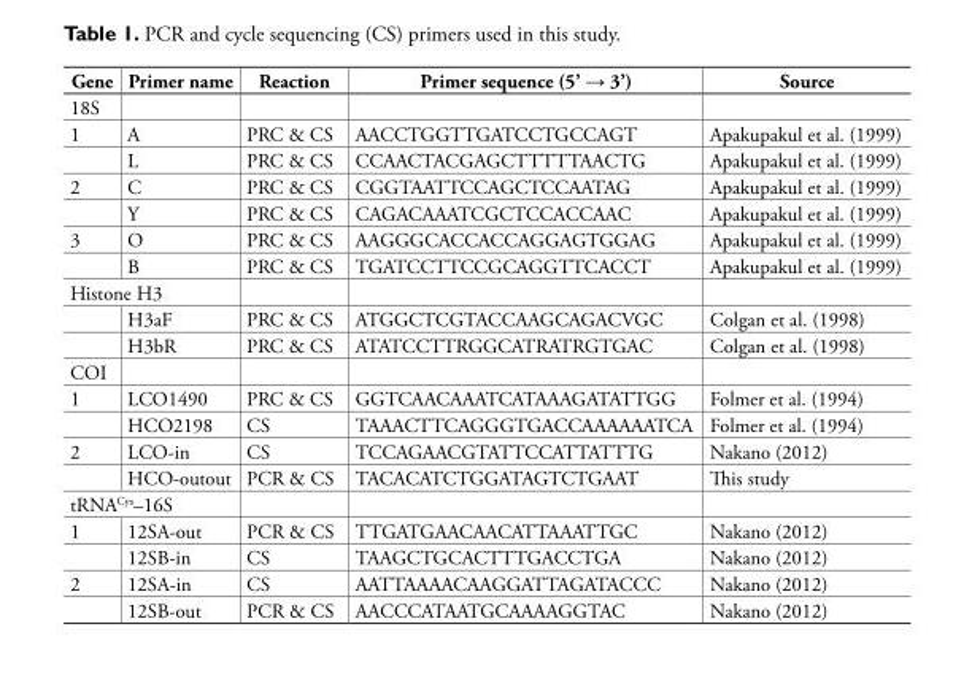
<table><thead><tr><td>Gene</td><td>Primer name</td><td>Reaction</td><td>Primer sequence (5’ → 3’)</td><td>Source</td></tr></thead><tbody><tr><td colspan="5">18S</td></tr><tr><td rowspan="2">1</td><td>A</td><td>PRC &amp; CS</td><td>AACCTGGTTGATCCTGCCAGT</td><td>Apakupakul et al. (1999)</td></tr><tr><td>L</td><td>PRC &amp; CS</td><td>CCAACTACGAGCTTTTTAACTG</td><td>Apakupakul et al. (1999)</td></tr><tr><td rowspan="2">2</td><td>C</td><td>PRC &amp; CS</td><td>CGGTAATTCCAGCTCCAATAG</td><td>Apakupakul et al. (1999)</td></tr><tr><td>Y</td><td>PRC &amp; CS</td><td>CAGACAAATCGCTCCACCAAC</td><td>Apakupakul et al. (1999)</td></tr><tr><td rowspan="2">3</td><td>O</td><td>PRC &amp; CS</td><td>AAGGGCACCACCAGGAGTGGAG</td><td>Apakupakul et al. (1999)</td></tr><tr><td>B</td><td>PRC &amp; CS</td><td>TGATCCTTCCGCAGGTTCACCT</td><td>Apakupakul et al. (1999)</td></tr><tr><td colspan="5">Histone H3</td></tr><tr><td></td><td>H3aF</td><td>PRC &amp; CS</td><td>ATGGCTCGTACCAAGCAGACVGC</td><td>Colgan et al. (1998)</td></tr><tr><td></td><td>H3bR</td><td>PRC &amp; CS</td><td>ATATCCTTRGGCATRATRGTGAC</td><td>Colgan et al. (1998)</td></tr><tr><td colspan="5">COI</td></tr><tr><td rowspan="2">1</td><td>LCO1490</td><td>PRC &amp; CS</td><td>GGTCAACAAATCATAAAGATATTGG</td><td>Folmer et al. (1994)</td></tr><tr><td>HCO2198</td><td>CS</td><td>TAAACTTCAGGGTGACCAAAAAATCA</td><td>Folmer et al. (1994)</td></tr><tr><td rowspan="2">2</td><td>LCO-in</td><td>CS</td><td>TCCAGAACGTATTCCATTATTTG</td><td>Nakano (2012)</td></tr><tr><td>HCO-outout</td><td>PCR &amp; CS</td><td>TACACATCTGGATAGTCTGAAT</td><td>This study</td></tr><tr><td colspan="5">tRNA<sup>Cys</sup>–16S</td></tr><tr><td rowspan="2">1</td><td>12SA-out</td><td>PCR &amp; CS</td><td>TTGATGAACAACATTAAATTGC</td><td>Nakano (2012)</td></tr><tr><td>12SB-in</td><td>CS</td><td>TAAGCTGCACTTTGACCTGA</td><td>Nakano (2012)</td></tr><tr><td rowspan="2">2</td><td>12SA-in</td><td>CS</td><td>AATTAAAACAAGGATTAGATACCC</td><td>Nakano (2012)</td></tr><tr><td>12SB-out</td><td>PCR &amp; CS</td><td>AACCCATAATGCAAAAGGTAC</td><td>Nakano (2012)</td></tr></tbody></table>